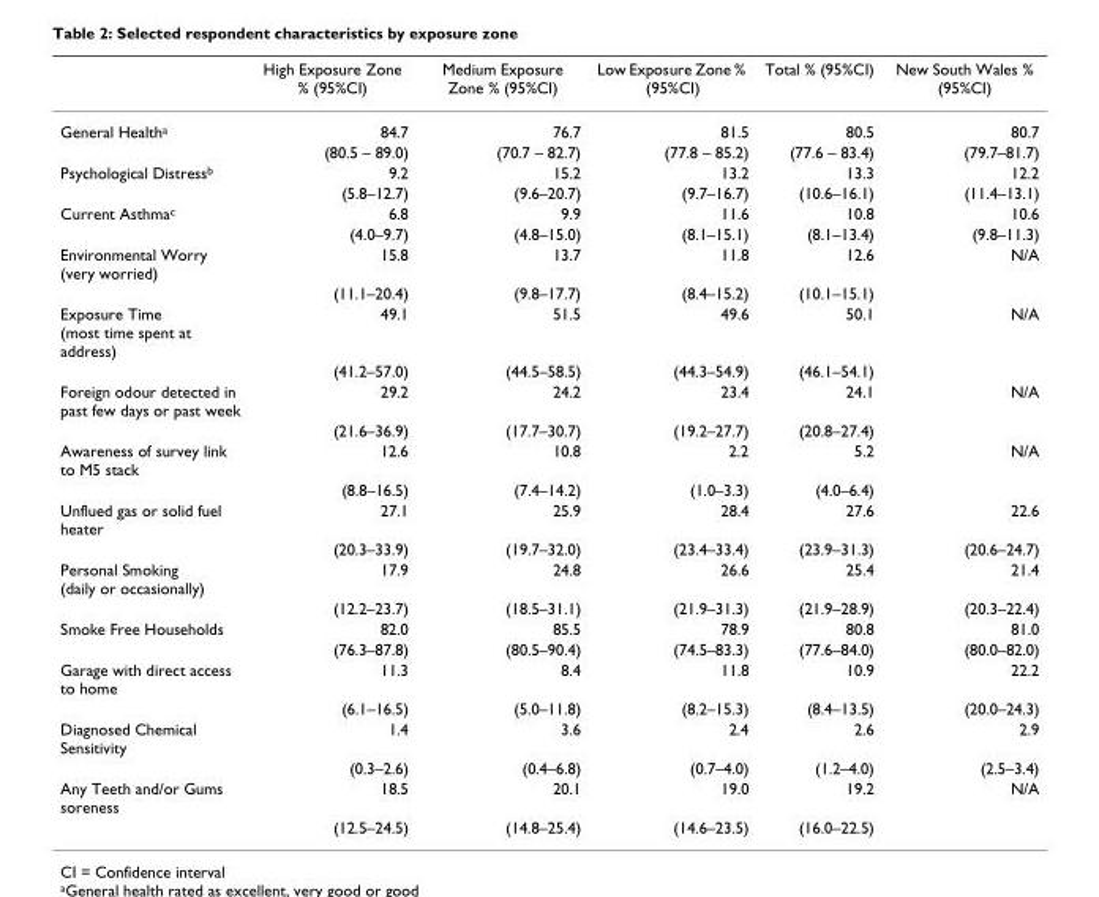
<table><thead><tr><td></td><td>High Exposure Zone % (95%CI)</td><td>Medium Exposure Zone % (95%CI)</td><td>Low Exposure Zone % (95%CI)</td><td>Total % (95%CI)</td><td>New South Wales % (95%CI)</td></tr></thead><tbody><tr><td rowspan="2">General Health<sup>a</sup></td><td>84.7</td><td>76.7</td><td>81.5</td><td>80.5</td><td>80.7</td></tr><tr><td>(80.5 – 89.0)</td><td>(70.7 – 82.7)</td><td>(77.8 – 85.2)</td><td>(77.6 – 83.4)</td><td>(79.7–81.7)</td></tr><tr><td rowspan="2">Psychological Distress<sup>b</sup></td><td>9.2</td><td>15.2</td><td>13.2</td><td>13.3</td><td>12.2</td></tr><tr><td>(5.8–12.7)</td><td>(9.6–20.7)</td><td>(9.7–16.7)</td><td>(10.6–16.1)</td><td>(11.4–13.1)</td></tr><tr><td rowspan="2">Current Asthma<sup>c</sup></td><td>6.8</td><td>9.9</td><td>11.6</td><td>10.8</td><td>10.6</td></tr><tr><td>(4.0–9.7)</td><td>(4.8–15.0)</td><td>(8.1–15.1)</td><td>(8.1–13.4)</td><td>(9.8–11.3)</td></tr><tr><td rowspan="2">Environmental Worry (very worried)</td><td>15.8</td><td>13.7</td><td>11.8</td><td>12.6</td><td>N/A</td></tr><tr><td>(11.1–20.4)</td><td>(9.8–17.7)</td><td>(8.4–15.2)</td><td>(10.1–15.1)</td><td></td></tr><tr><td rowspan="2">Exposure Time (most time spent at address)</td><td>49.1</td><td>51.5</td><td>49.6</td><td>50.1</td><td>N/A</td></tr><tr><td>(41.2–57.0)</td><td>(44.5–58.5)</td><td>(44.3–54.9)</td><td>(46.1–54.1)</td><td></td></tr><tr><td rowspan="2">Foreign odour detected in past few days or past week</td><td>29.2</td><td>24.2</td><td>23.4</td><td>24.1</td><td>N/A</td></tr><tr><td>(21.6–36.9)</td><td>(17.7–30.7)</td><td>(19.2–27.7)</td><td>(20.8–27.4)</td><td></td></tr><tr><td rowspan="2">Awareness of survey link to M5 stack</td><td>12.6</td><td>10.8</td><td>2.2</td><td>5.2</td><td>N/A</td></tr><tr><td>(8.8–16.5)</td><td>(7.4–14.2)</td><td>(1.0–3.3)</td><td>(4.0–6.4)</td><td></td></tr><tr><td rowspan="2">Unflued gas or solid fuel heater</td><td>27.1</td><td>25.9</td><td>28.4</td><td>27.6</td><td>22.6</td></tr><tr><td>(20.3–33.9)</td><td>(19.7–32.0)</td><td>(23.4–33.4)</td><td>(23.9–31.3)</td><td>(20.6–24.7)</td></tr><tr><td rowspan="2">Personal Smoking (daily or occasionally)</td><td>17.9</td><td>24.8</td><td>26.6</td><td>25.4</td><td>21.4</td></tr><tr><td>(12.2–23.7)</td><td>(18.5–31.1)</td><td>(21.9–31.3)</td><td>(21.9–28.9)</td><td>(20.3–22.4)</td></tr><tr><td rowspan="2">Smoke Free Households</td><td>82.0</td><td>85.5</td><td>78.9</td><td>80.8</td><td>81.0</td></tr><tr><td>(76.3–87.8)</td><td>(80.5–90.4)</td><td>(74.5–83.3)</td><td>(77.6–84.0)</td><td>(80.0–82.0)</td></tr><tr><td rowspan="2">Garage with direct access to home</td><td>11.3</td><td>8.4</td><td>11.8</td><td>10.9</td><td>22.2</td></tr><tr><td>(6.1–16.5)</td><td>(5.0–11.8)</td><td>(8.2–15.3)</td><td>(8.4–13.5)</td><td>(20.0–24.3)</td></tr><tr><td rowspan="2">Diagnosed Chemical Sensitivity</td><td>1.4</td><td>3.6</td><td>2.4</td><td>2.6</td><td>2.9</td></tr><tr><td>(0.3–2.6)</td><td>(0.4–6.8)</td><td>(0.7–4.0)</td><td>(1.2–4.0)</td><td>(2.5–3.4)</td></tr><tr><td rowspan="2">Any Teeth and/or Gums soreness</td><td>18.5</td><td>20.1</td><td>19.0</td><td>19.2</td><td>N/A</td></tr><tr><td>(12.5–24.5)</td><td>(14.8–25.4)</td><td>(14.6–23.5)</td><td>(16.0–22.5)</td><td></td></tr></tbody></table>